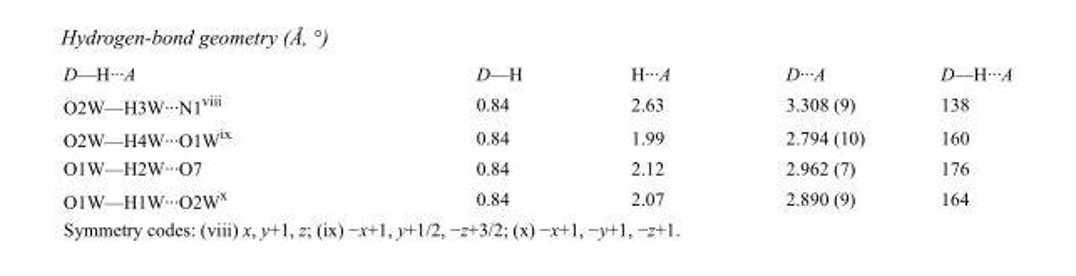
<table><tbody><tr><td>D—H···A</td><td>D—H</td><td>H···A</td><td>D···A</td><td>D—H···A</td></tr><tr><td>O2W—H3W···N1<sup>viii</sup></td><td>0.84</td><td>2.63</td><td>3.308 (9)</td><td>138</td></tr><tr><td>O2W—H4W···O1W<sup>ix</sup></td><td>0.84</td><td>1.99</td><td>2.794 (10)</td><td>160</td></tr><tr><td>O1W—H2W···O7</td><td>0.84</td><td>2.12</td><td>2.962 (7)</td><td>176</td></tr><tr><td>O1W—H1W···O2W<sup>x</sup></td><td>0.84</td><td>2.07</td><td>2.890 (9)</td><td>164</td></tr></tbody></table>